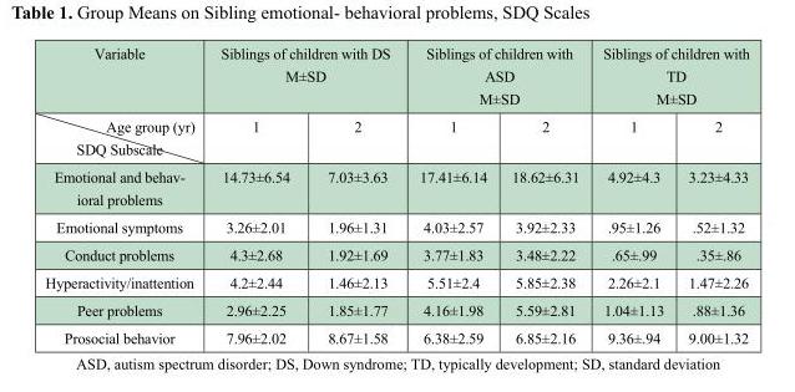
<table><thead><tr><td rowspan="3">Variable Age group (yr) SDQ Subscale</td><td colspan="2">Siblings of children with DS M±SD</td><td colspan="2">Siblings of children with ASD M±SD</td><td colspan="2">Siblings of children with TD M±SD</td></tr><tr><td rowspan="2">1</td><td rowspan="2">2</td><td rowspan="2">1</td><td rowspan="2">2</td><td rowspan="2">1</td><td rowspan="2">2</td></tr><tr></tr></thead><tbody><tr><td>Emotional and behav- ioral problems</td><td>14.73±6.54</td><td>7.03±3.63</td><td>17.41±6.14</td><td>18.62±6.31</td><td>4.92±4.3</td><td>3.23±4.33</td></tr><tr><td>Emotional symptoms</td><td>3.26±2.01</td><td>1.96±1.31</td><td>4.03±2.57</td><td>3.92±2.33</td><td>.95±1.26</td><td>.52±1.32</td></tr><tr><td>Conduct problems</td><td>4.3±2.68</td><td>1.92±1.69</td><td>3.77±1.83</td><td>3.48±2.22</td><td>.65±.99</td><td>.35±.86</td></tr><tr><td>Hyperactivity/inattention</td><td>4.2±2.44</td><td>1.46±2.13</td><td>5.51±2.4</td><td>5.85±2.38</td><td>2.26±2.1</td><td>1.47±2.26</td></tr><tr><td>Peer problems</td><td>2.96±2.25</td><td>1.85±1.77</td><td>4.16±1.98</td><td>5.59±2.81</td><td>1.04±1.13</td><td>.88±1.36</td></tr><tr><td>Prosocial behavior</td><td>7.96±2.02</td><td>8.67±1.58</td><td>6.38±2.59</td><td>6.85±2.16</td><td>9.36±.94</td><td>9.00±1.32</td></tr></tbody></table>